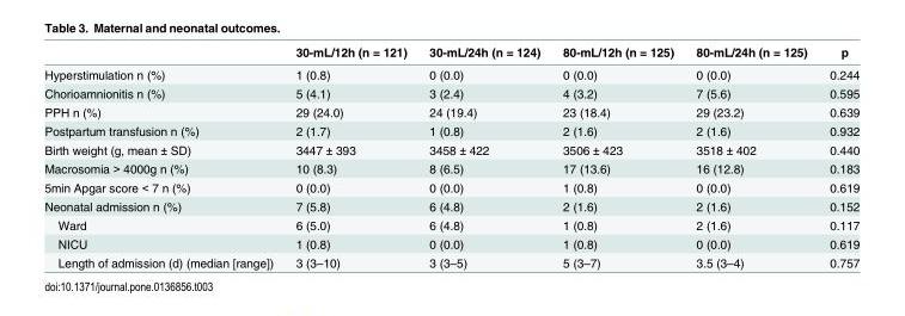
<table><thead><tr><td></td><td>30-mL/12h (n = 121)</td><td>30-mL/24h (n = 124)</td><td>80-mL/12h (n = 125)</td><td>80-mL/24h (n = 125)</td><td>p</td></tr></thead><tbody><tr><td>Hyperstimulation n (%)</td><td>1 (0.8)</td><td>0 (0.0)</td><td>0 (0.0)</td><td>0 (0.0)</td><td>0.244</td></tr><tr><td>Chorioamnionitis n (%)</td><td>5 (4.1)</td><td>3 (2.4)</td><td>4 (3.2)</td><td>7 (5.6)</td><td>0.595</td></tr><tr><td>PPH n (%)</td><td>29 (24.0)</td><td>24 (19.4)</td><td>23 (18.4)</td><td>29 (23.2)</td><td>0.639</td></tr><tr><td>Postpartum transfusion n (%)</td><td>2 (1.7)</td><td>1 (0.8)</td><td>2 (1.6)</td><td>2 (1.6)</td><td>0.932</td></tr><tr><td>Birth weight (g, mean ± SD)</td><td>3447 ± 393</td><td>3458 ± 422</td><td>3506 ± 423</td><td>3518 ± 402</td><td>0.440</td></tr><tr><td>Macrosomia &gt; 4000g n (%)</td><td>10 (8.3)</td><td>8 (6.5)</td><td>17 (13.6)</td><td>16 (12.8)</td><td>0.183</td></tr><tr><td>5min Apgar score &lt; 7 n (%)</td><td>0 (0.0)</td><td>0 (0.0)</td><td>1 (0.8)</td><td>0 (0.0)</td><td>0.619</td></tr><tr><td>Neonatal admission n (%)</td><td>7 (5.8)</td><td>6 (4.8)</td><td>2 (1.6)</td><td>2 (1.6)</td><td>0.152</td></tr><tr><td>Ward</td><td>6 (5.0)</td><td>6 (4.8)</td><td>1 (0.8)</td><td>2 (1.6)</td><td>0.117</td></tr><tr><td>NICU</td><td>1 (0.8)</td><td>0 (0.0)</td><td>1 (0.8)</td><td>0 (0.0)</td><td>0.619</td></tr><tr><td>Length of admission (d) (median [range])</td><td>3 (3–10)</td><td>3 (3–5)</td><td>5 (3–7)</td><td>3.5 (3–4)</td><td>0.757</td></tr></tbody></table>